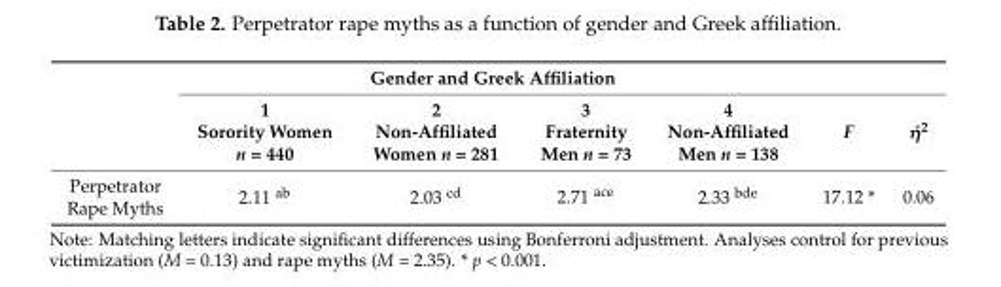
<table><thead><tr><td rowspan="2"></td><td colspan="4">Gender and Greek Affiliation</td><td rowspan="2">F</td><td rowspan="2">ή<sup>2</sup></td></tr><tr><td>1 Sorority Women n = 440</td><td>2 Non-Affiliated Women n = 281</td><td>3 Fraternity Men n = 73</td><td>4 Non-Affiliated Men n = 138</td></tr></thead><tbody><tr><td>Perpetrator Rape Myths</td><td>2.11 <sup>ab</sup></td><td>2.03 <sup>cd</sup></td><td>2.71 <sup>ace</sup></td><td>2.33 <sup>bde</sup></td><td>17.12 *</td><td>0.06</td></tr></tbody></table>